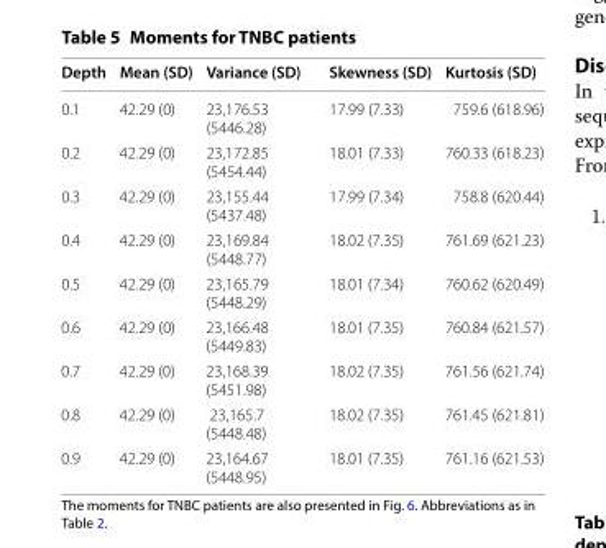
<table><thead><tr><td>Depth</td><td>Mean (SD)</td><td>Variance (SD)</td><td>Skewness (SD)</td><td>Kurtosis (SD)</td></tr></thead><tbody><tr><td>0.1</td><td>42.29 (0)</td><td>23,176.53 (5446.28)</td><td>17.99 (7.33)</td><td>759.6 (618.96)</td></tr><tr><td>0.2</td><td>42.29 (0)</td><td>23,172.85 (5454.44)</td><td>18.01 (7.33)</td><td>760.33 (618.23)</td></tr><tr><td>0.3</td><td>42.29 (0)</td><td>23,155.44 (5437.48)</td><td>17.99 (7.34)</td><td>758.8 (620.44)</td></tr><tr><td>0.4</td><td>42.29 (0)</td><td>23,169.84 (5448.77)</td><td>18.02 (7.35)</td><td>761.69 (621.23)</td></tr><tr><td>0.5</td><td>42.29 (0)</td><td>23,165.79 (5448.29)</td><td>18.01 (7.34)</td><td>760.62 (620.49)</td></tr><tr><td>0.6</td><td>42.29 (0)</td><td>23,166.48 (5449.83)</td><td>18.01 (7.35)</td><td>760.84 (621.57)</td></tr><tr><td>0.7</td><td>42.29 (0)</td><td>23,168.39 (5451.98)</td><td>18.02 (7.35)</td><td>761.56 (621.74)</td></tr><tr><td>0.8</td><td>42.29 (0)</td><td>23,165.7 (5448.48)</td><td>18.02 (7.35)</td><td>761.45 (621.81)</td></tr><tr><td>0.9</td><td>42.29 (0)</td><td>23,164.67 (5448.95)</td><td>18.01 (7.35)</td><td>761.16 (621.53)</td></tr></tbody></table>